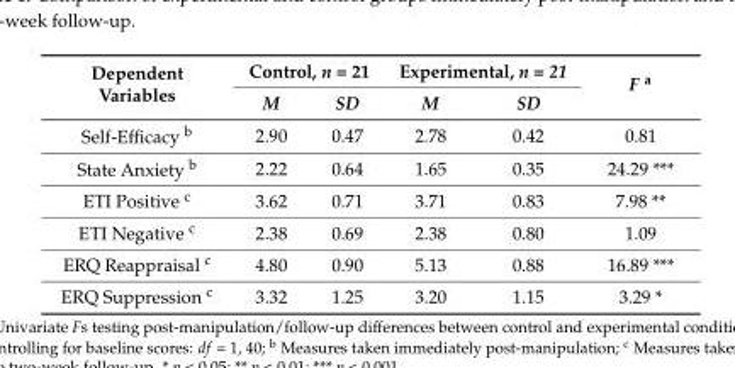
<table><thead><tr><td rowspan="2">Dependent Variables</td><td colspan="2">Control, n = 21</td><td colspan="2">Experimental, n = 21</td><td rowspan="2">F <sup>a</sup></td></tr><tr><td>M</td><td>SD</td><td>M</td><td>SD</td></tr></thead><tbody><tr><td>Self-Efficacy <sup>b</sup></td><td>2.90</td><td>0.47</td><td>2.78</td><td>0.42</td><td>0.81</td></tr><tr><td>State Anxiety <sup>b</sup></td><td>2.22</td><td>0.64</td><td>1.65</td><td>0.35</td><td>24.29 ***</td></tr><tr><td>ETI Positive <sup>c</sup></td><td>3.62</td><td>0.71</td><td>3.71</td><td>0.83</td><td>7.98 **</td></tr><tr><td>ETI Negative <sup>c</sup></td><td>2.38</td><td>0.69</td><td>2.38</td><td>0.80</td><td>1.09</td></tr><tr><td>ERQ Reappraisal <sup>c</sup></td><td>4.80</td><td>0.90</td><td>5.13</td><td>0.88</td><td>16.89 ***</td></tr><tr><td>ERQ Suppression <sup>c</sup></td><td>3.32</td><td>1.25</td><td>3.20</td><td>1.15</td><td>3.29 *</td></tr></tbody></table>